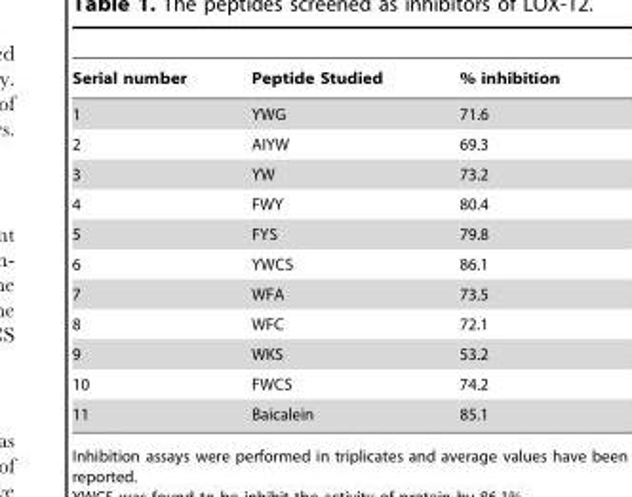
<table><thead><tr><td>Serial number</td><td>Peptide Studied</td><td>% inhibition</td></tr></thead><tbody><tr><td>1</td><td>YWG</td><td>71.6</td></tr><tr><td>2</td><td>AIYW</td><td>69.3</td></tr><tr><td>3</td><td>YW</td><td>73.2</td></tr><tr><td>4</td><td>FWY</td><td>80.4</td></tr><tr><td>5</td><td>FYS</td><td>79.8</td></tr><tr><td>6</td><td>YWCS</td><td>86.1</td></tr><tr><td>7</td><td>WFA</td><td>73.5</td></tr><tr><td>8</td><td>WFC</td><td>72.1</td></tr><tr><td>9</td><td>WKS</td><td>53.2</td></tr><tr><td>10</td><td>FWCS</td><td>74.2</td></tr><tr><td>11</td><td>Baicalein</td><td>85.1</td></tr></tbody></table>